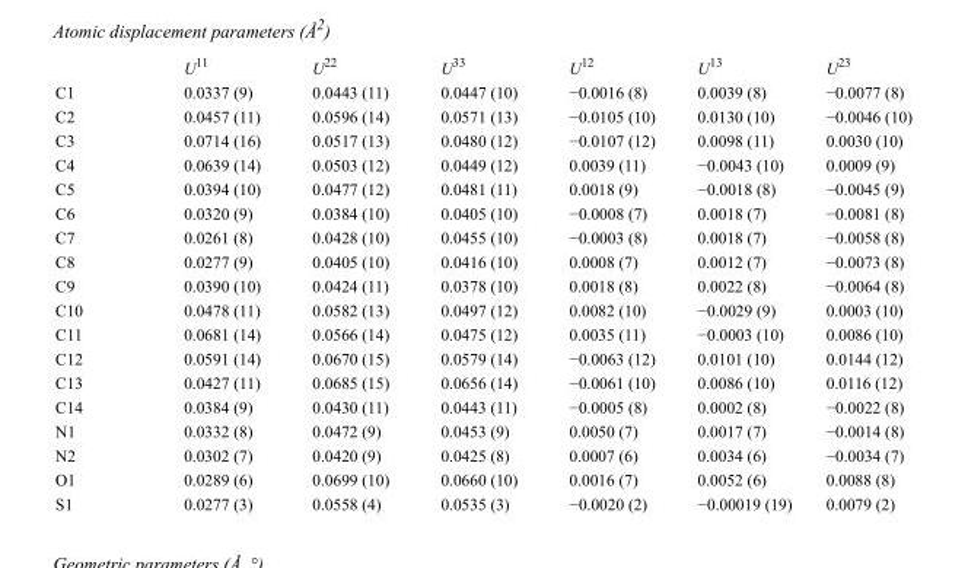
<table><thead><tr><td></td><td>U<sup>11</sup></td><td>U<sup>22</sup></td><td>U<sup>33</sup></td><td>U<sup>12</sup></td><td>U<sup>13</sup></td><td>U<sup>23</sup></td></tr></thead><tbody><tr><td>C1</td><td>0.0337 (9)</td><td>0.0443 (11)</td><td>0.0447 (10)</td><td>−0.0016 (8)</td><td>0.0039 (8)</td><td>−0.0077 (8)</td></tr><tr><td>C2</td><td>0.0457 (11)</td><td>0.0596 (14)</td><td>0.0571 (13)</td><td>−0.0105 (10)</td><td>0.0130 (10)</td><td>−0.0046 (10)</td></tr><tr><td>C3</td><td>0.0714 (16)</td><td>0.0517 (13)</td><td>0.0480 (12)</td><td>−0.0107 (12)</td><td>0.0098 (11)</td><td>0.0030 (10)</td></tr><tr><td>C4</td><td>0.0639 (14)</td><td>0.0503 (12)</td><td>0.0449 (12)</td><td>0.0039 (11)</td><td>−0.0043 (10)</td><td>0.0009 (9)</td></tr><tr><td>C5</td><td>0.0394 (10)</td><td>0.0477 (12)</td><td>0.0481 (11)</td><td>0.0018 (9)</td><td>−0.0018 (8)</td><td>−0.0045 (9)</td></tr><tr><td>C6</td><td>0.0320 (9)</td><td>0.0384 (10)</td><td>0.0405 (10)</td><td>−0.0008 (7)</td><td>0.0018 (7)</td><td>−0.0081 (8)</td></tr><tr><td>C7</td><td>0.0261 (8)</td><td>0.0428 (10)</td><td>0.0455 (10)</td><td>−0.0003 (8)</td><td>0.0018 (7)</td><td>−0.0058 (8)</td></tr><tr><td>C8</td><td>0.0277 (9)</td><td>0.0405 (10)</td><td>0.0416 (10)</td><td>0.0008 (7)</td><td>0.0012 (7)</td><td>−0.0073 (8)</td></tr><tr><td>C9</td><td>0.0390 (10)</td><td>0.0424 (11)</td><td>0.0378 (10)</td><td>0.0018 (8)</td><td>0.0022 (8)</td><td>−0.0064 (8)</td></tr><tr><td>C10</td><td>0.0478 (11)</td><td>0.0582 (13)</td><td>0.0497 (12)</td><td>0.0082 (10)</td><td>−0.0029 (9)</td><td>0.0003 (10)</td></tr><tr><td>C11</td><td>0.0681 (14)</td><td>0.0566 (14)</td><td>0.0475 (12)</td><td>0.0035 (11)</td><td>−0.0003 (10)</td><td>0.0086 (10)</td></tr><tr><td>C12</td><td>0.0591 (14)</td><td>0.0670 (15)</td><td>0.0579 (14)</td><td>−0.0063 (12)</td><td>0.0101 (10)</td><td>0.0144 (12)</td></tr><tr><td>C13</td><td>0.0427 (11)</td><td>0.0685 (15)</td><td>0.0656 (14)</td><td>−0.0061 (10)</td><td>0.0086 (10)</td><td>0.0116 (12)</td></tr><tr><td>C14</td><td>0.0384 (9)</td><td>0.0430 (11)</td><td>0.0443 (11)</td><td>−0.0005 (8)</td><td>0.0002 (8)</td><td>−0.0022 (8)</td></tr><tr><td>N1</td><td>0.0332 (8)</td><td>0.0472 (9)</td><td>0.0453 (9)</td><td>0.0050 (7)</td><td>0.0017 (7)</td><td>−0.0014 (8)</td></tr><tr><td>N2</td><td>0.0302 (7)</td><td>0.0420 (9)</td><td>0.0425 (8)</td><td>0.0007 (6)</td><td>0.0034 (6)</td><td>−0.0034 (7)</td></tr><tr><td>O1</td><td>0.0289 (6)</td><td>0.0699 (10)</td><td>0.0660 (10)</td><td>0.0016 (7)</td><td>0.0052 (6)</td><td>0.0088 (8)</td></tr><tr><td>S1</td><td>0.0277 (3)</td><td>0.0558 (4)</td><td>0.0535 (3)</td><td>−0.0020 (2)</td><td>−0.00019 (19)</td><td>0.0079 (2)</td></tr></tbody></table>